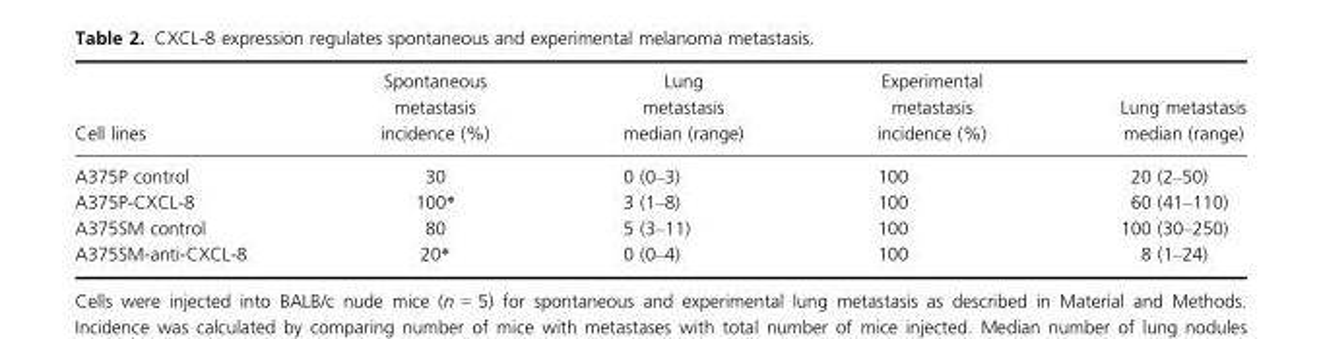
<table><thead><tr><td>Cell lines</td><td>Spontaneous metastasis incidence (%)</td><td>Lung metastasis median (range)</td><td>Experimental metastasis incidence (%)</td><td>Lung metastasis median (range)</td></tr></thead><tbody><tr><td>A375P control</td><td>30</td><td>0 (0–3)</td><td>100</td><td>20 (2–50)</td></tr><tr><td>A375P-CXCL-8</td><td>100*</td><td>3 (1–8)</td><td>100</td><td>60 (41–110)</td></tr><tr><td>A375SM control</td><td>80</td><td>5 (3–11)</td><td>100</td><td>100 (30–250)</td></tr><tr><td>A375SM-anti-CXCL-8</td><td>20*</td><td>0 (0–4)</td><td>100</td><td>8 (1–24)</td></tr></tbody></table>